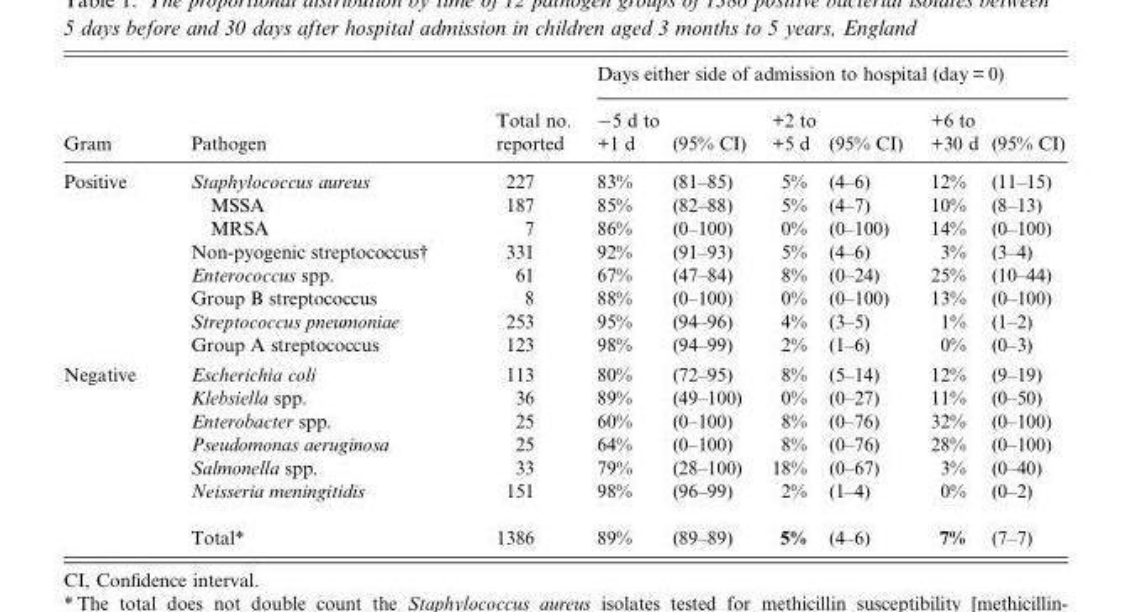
<table><thead><tr><td rowspan="2">Gram</td><td rowspan="2">Pathogen</td><td rowspan="2">Total no. reported</td><td colspan="6">Days either side of admission to hospital (day = 0)</td></tr><tr><td>−5 d to +1 d</td><td>(95% CI)</td><td>+2 to +5 d</td><td>(95% CI)</td><td>+6 to +30 d</td><td>(95% CI)</td></tr></thead><tbody><tr><td rowspan="8">Positive</td><td>Staphylococcus aureus</td><td>227</td><td>83%</td><td>(81–85)</td><td>5%</td><td>(4–6)</td><td>12%</td><td>(11–15)</td></tr><tr><td>MSSA</td><td>187</td><td>85%</td><td>(82–88)</td><td>5%</td><td>(4–7)</td><td>10%</td><td>(8–13)</td></tr><tr><td>MRSA</td><td>7</td><td>86%</td><td>(0–100)</td><td>0%</td><td>(0–100)</td><td>14%</td><td>(0–100)</td></tr><tr><td>Non-pyogenic streptococcus†</td><td>331</td><td>92%</td><td>(91–93)</td><td>5%</td><td>(4–6)</td><td>3%</td><td>(3–4)</td></tr><tr><td>Enterococcus spp.</td><td>61</td><td>67%</td><td>(47–84)</td><td>8%</td><td>(0–24)</td><td>25%</td><td>(10–44)</td></tr><tr><td>Group B streptococcus</td><td>8</td><td>88%</td><td>(0–100)</td><td>0%</td><td>(0–100)</td><td>13%</td><td>(0–100)</td></tr><tr><td>Streptococcus pneumoniae</td><td>253</td><td>95%</td><td>(94–96)</td><td>4%</td><td>(3–5)</td><td>1%</td><td>(1–2)</td></tr><tr><td>Group A streptococcus</td><td>123</td><td>98%</td><td>(94–99)</td><td>2%</td><td>(1–6)</td><td>0%</td><td>(0–3)</td></tr><tr><td rowspan="7">Negative</td><td>Escherichia coli</td><td>113</td><td>80%</td><td>(72–95)</td><td>8%</td><td>(5–14)</td><td>12%</td><td>(9–19)</td></tr><tr><td>Klebsiella spp.</td><td>36</td><td>89%</td><td>(49–100)</td><td>0%</td><td>(0–27)</td><td>11%</td><td>(0–50)</td></tr><tr><td>Enterobacter spp.</td><td>25</td><td>60%</td><td>(0–100)</td><td>8%</td><td>(0–76)</td><td>32%</td><td>(0–100)</td></tr><tr><td>Pseudomonas aeruginosa</td><td>25</td><td>64%</td><td>(0–100)</td><td>8%</td><td>(0–76)</td><td>28%</td><td>(0–100)</td></tr><tr><td>Salmonella spp.</td><td>33</td><td>79%</td><td>(28–100)</td><td>18%</td><td>(0–67)</td><td>3%</td><td>(0–40)</td></tr><tr><td>Neisseria meningitidis</td><td>151</td><td>98%</td><td>(96–99)</td><td>2%</td><td>(1–4)</td><td>0%</td><td>(0–2)</td></tr><tr><td>Total*</td><td>1386</td><td>89%</td><td>(89–89)</td><td>5%</td><td>(4–6)</td><td>7%</td><td>(7–7)</td></tr></tbody></table>